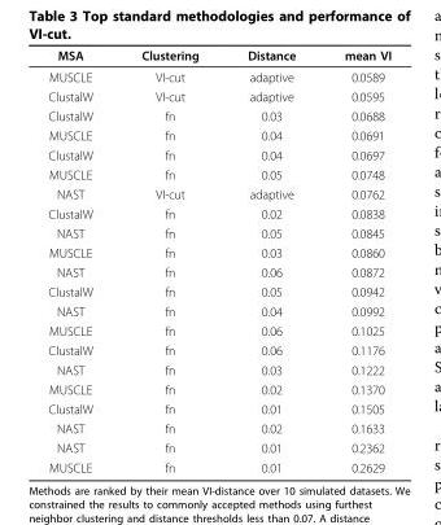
<table><thead><tr><td>MSA</td><td>Clustering</td><td>Distance</td><td>mean VI</td></tr></thead><tbody><tr><td>MUSCLE</td><td>VI-cut</td><td>adaptive</td><td>0.0589</td></tr><tr><td>ClustalW</td><td>VI-cut</td><td>adaptive</td><td>0.0595</td></tr><tr><td>ClustalW</td><td>fn</td><td>0.03</td><td>0.0688</td></tr><tr><td>MUSCLE</td><td>fn</td><td>0.04</td><td>0.0691</td></tr><tr><td>ClustalW</td><td>fn</td><td>0.04</td><td>0.0697</td></tr><tr><td>MUSCLE</td><td>fn</td><td>0.05</td><td>0.0748</td></tr><tr><td>NAST</td><td>VI-cut</td><td>adaptive</td><td>0.0762</td></tr><tr><td>ClustalW</td><td>fn</td><td>0.02</td><td>0.0838</td></tr><tr><td>NAST</td><td>fn</td><td>0.05</td><td>0.0845</td></tr><tr><td>MUSCLE</td><td>fn</td><td>0.03</td><td>0.0860</td></tr><tr><td>NAST</td><td>fn</td><td>0.06</td><td>0.0872</td></tr><tr><td>ClustalW</td><td>fn</td><td>0.05</td><td>0.0942</td></tr><tr><td>NAST</td><td>fn</td><td>0.04</td><td>0.0992</td></tr><tr><td>MUSCLE</td><td>fn</td><td>0.06</td><td>0.1025</td></tr><tr><td>ClustalW</td><td>fn</td><td>0.06</td><td>0.1176</td></tr><tr><td>NAST</td><td>fn</td><td>0.03</td><td>0.1222</td></tr><tr><td>MUSCLE</td><td>fn</td><td>0.02</td><td>0.1370</td></tr><tr><td>ClustalW</td><td>fn</td><td>0.01</td><td>0.1505</td></tr><tr><td>NAST</td><td>fn</td><td>0.02</td><td>0.1633</td></tr><tr><td>NAST</td><td>fn</td><td>0.01</td><td>0.2362</td></tr><tr><td>MUSCLE</td><td>fn</td><td>0.01</td><td>0.2629</td></tr></tbody></table>